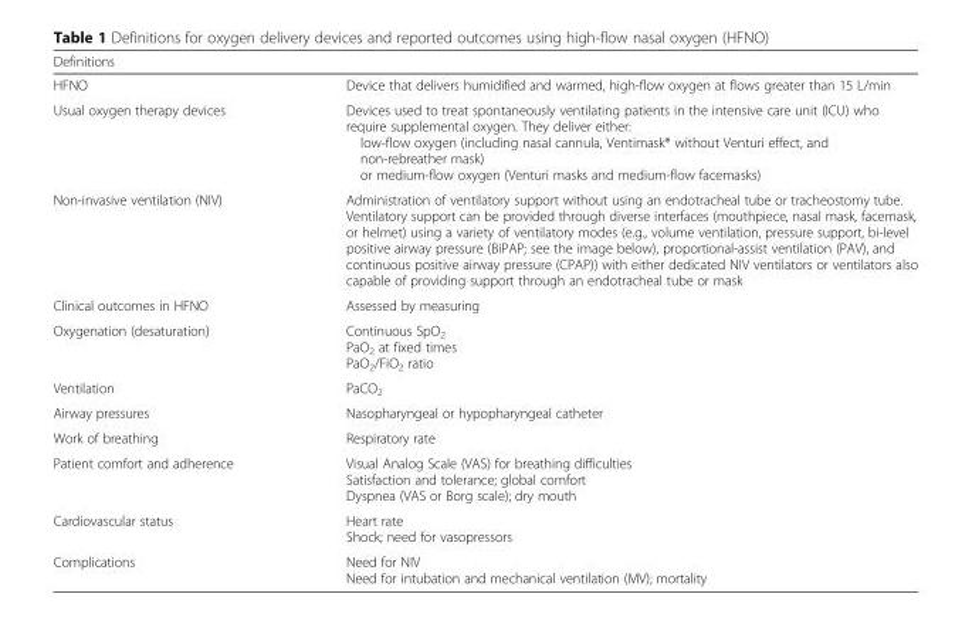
<table><thead><tr><td>Definitions</td><td></td></tr></thead><tbody><tr><td>HFNO</td><td>Device that delivers humidified and warmed, high-flow oxygen at flows greater than 15 L/min</td></tr><tr><td>Usual oxygen therapy devices</td><td>Devices used to treat spontaneously ventilating patients in the intensive care unit (ICU) who require supplemental oxygen. They deliver either: low-flow oxygen (including nasal cannula, Ventimask® without Venturi effect, and non-rebreather mask) or medium-flow oxygen (Venturi masks and medium-flow facemasks)</td></tr><tr><td>Non-invasive ventilation (NIV)</td><td>Administration of ventilatory support without using an endotracheal tube or tracheostomy tube. Ventilatory support can be provided through diverse interfaces (mouthpiece, nasal mask, facemask, or helmet) using a variety of ventilatory modes (e.g., volume ventilation, pressure support, bi-level positive airway pressure (BiPAP; see the image below), proportional-assist ventilation (PAV), and continuous positive airway pressure (CPAP)) with either dedicated NIV ventilators or ventilators also capable of providing support through an endotracheal tube or mask</td></tr><tr><td>Clinical outcomes in HFNO</td><td>Assessed by measuring</td></tr><tr><td>Oxygenation (desaturation)</td><td>Continuous SpO<sub>2</sub> PaO<sub>2</sub> at fixed times PaO<sub>2</sub>/FiO<sub>2</sub> ratio</td></tr><tr><td>Ventilation</td><td>PaCO<sub>2</sub></td></tr><tr><td>Airway pressures</td><td>Nasopharyngeal or hypopharyngeal catheter</td></tr><tr><td>Work of breathing</td><td>Respiratory rate</td></tr><tr><td>Patient comfort and adherence</td><td>Visual Analog Scale (VAS) for breathing difficulties Satisfaction and tolerance; global comfort Dyspnea (VAS or Borg scale); dry mouth</td></tr><tr><td>Cardiovascular status</td><td>Heart rate Shock; need for vasopressors</td></tr><tr><td>Complications</td><td>Need for NIV Need for intubation and mechanical ventilation (MV); mortality</td></tr></tbody></table>